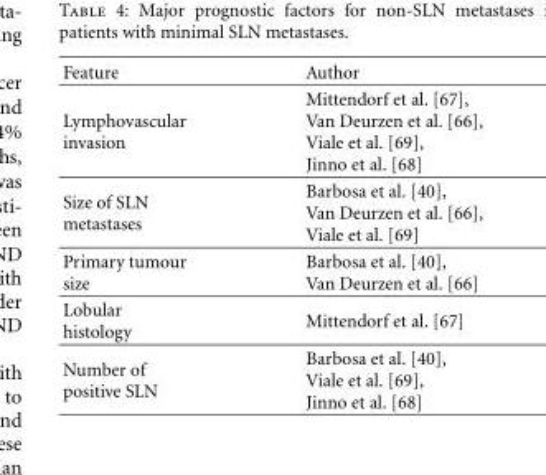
<table><thead><tr><td>Feature</td><td>Author</td></tr></thead><tbody><tr><td>Lymphovascular invasion</td><td>Mittendorf et al. [67], Van Deurzen et al. [66], Viale et al. [69], Jinno et al. [68]</td></tr><tr><td>Size of SLN metastases</td><td>Barbosa et al. [40], Van Deurzen et al. [66], Viale et al. [69]</td></tr><tr><td>Primary tumour size</td><td>Barbosa et al. [40], Van Deurzen et al. [66]</td></tr><tr><td>Lobular histology</td><td>Mittendorf et al. [67]</td></tr><tr><td>Number of positive SLN</td><td>Barbosa et al. [40], Viale et al. [69], Jinno et al. [68]</td></tr></tbody></table>